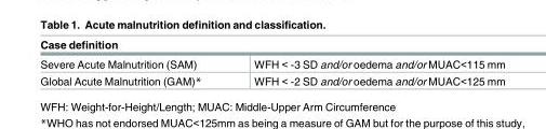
<table><thead><tr><td colspan="2">Case definition</td></tr><tr><td>Severe Acute Malnutrition (SAM)</td><td>WFH &lt; -3 SD and/or oedema and/or MUAC&lt;115 mm</td></tr></thead><tbody><tr><td>Global Acute Malnutrition (GAM)*</td><td>WFH &lt; -2 SD and/or oedema and/or MUAC&lt;125 mm</td></tr></tbody></table>